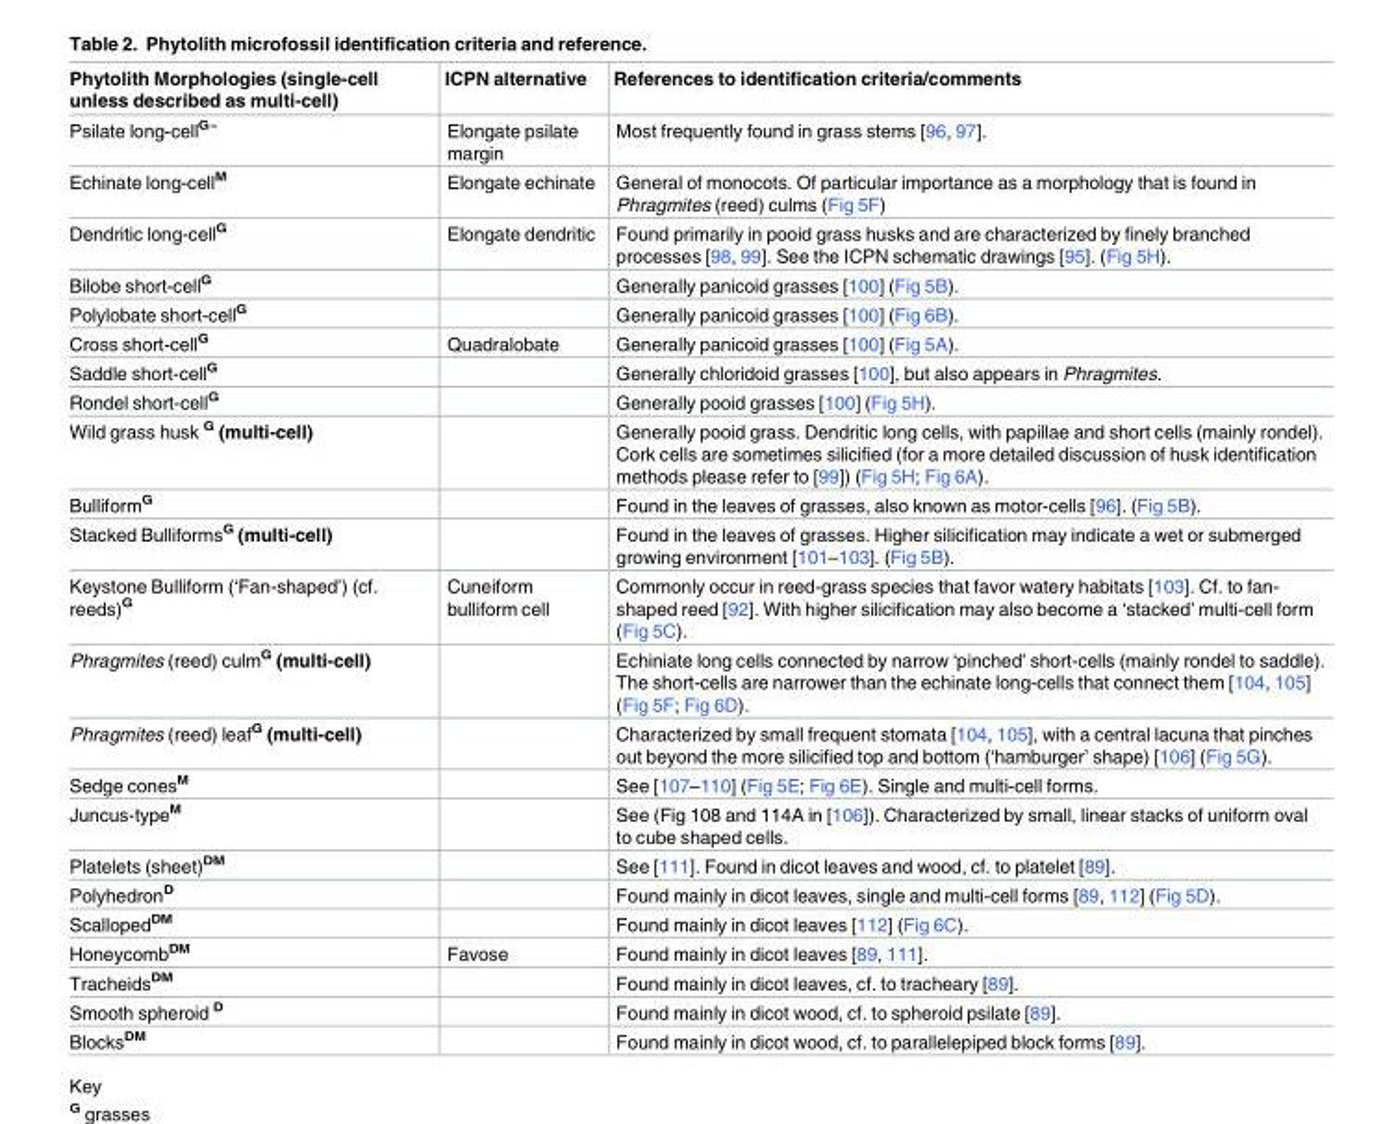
<table><thead><tr><td>Phytolith Morphologies (single-cell unless described as multi-cell)</td><td>ICPN alternative</td><td>References to identification criteria/comments</td></tr></thead><tbody><tr><td>Psilate long-cell<sup>G~</sup></td><td>Elongate psilate margin</td><td>Most frequently found in grass stems [96, 97].</td></tr><tr><td>Echinate long-cell<sup>M</sup></td><td>Elongate echinate</td><td>General of monocots. Of particular importance as a morphology that is found in Phragmites (reed) culms (Fig 5F)</td></tr><tr><td>Dendritic long-cell<sup>G</sup></td><td>Elongate dendritic</td><td>Found primarily in pooid grass husks and are characterized by finely branched processes [98, 99]. See the ICPN schematic drawings [95]. (Fig 5H).</td></tr><tr><td>Bilobe short-cell<sup>G</sup></td><td></td><td>Generally panicoid grasses [100] (Fig 5B).</td></tr><tr><td>Polylobate short-cell<sup>G</sup></td><td></td><td>Generally panicoid grasses [100] (Fig 6B).</td></tr><tr><td>Cross short-cell<sup>G</sup></td><td>Quadralobate</td><td>Generally panicoid grasses [100] (Fig 5A).</td></tr><tr><td>Saddle short-cell<sup>G</sup></td><td></td><td>Generally chloridoid grasses [100], but also appears in Phragmites.</td></tr><tr><td>Rondel short-cell<sup>G</sup></td><td></td><td>Generally pooid grasses [100] (Fig 5H).</td></tr><tr><td>Wild grass husk <sup>G</sup> (multi-cell)</td><td></td><td>Generally pooid grass. Dendritic long cells, with papillae and short cells (mainly rondel). Cork cells are sometimes silicified (for a more detailed discussion of husk identification methods please refer to [99]) (Fig 5H; Fig 6A).</td></tr><tr><td>Bulliform<sup>G</sup></td><td></td><td>Found in the leaves of grasses, also known as motor-cells [96]. (Fig 5B).</td></tr><tr><td>Stacked Bulliforms<sup>G</sup> (multi-cell)</td><td></td><td>Found in the leaves of grasses. Higher silicification may indicate a wet or submerged growing environment [101–103]. (Fig 5B).</td></tr><tr><td>Keystone Bulliform (‘Fan-shaped’) (cf. reeds)<sup>G</sup></td><td>Cuneiform bulliform cell</td><td>Commonly occur in reed-grass species that favor watery habitats [103]. Cf. to fan- shaped reed [92]. With higher silicification may also become a ‘stacked’ multi-cell form (Fig 5C).</td></tr><tr><td>Phragmites (reed) culm<sup>G</sup> (multi-cell)</td><td></td><td>Echiniate long cells connected by narrow ‘pinched’ short-cells (mainly rondel to saddle). The short-cells are narrower than the echinate long-cells that connect them [104, 105] (Fig 5F; Fig 6D).</td></tr><tr><td>Phragmites (reed) leaf<sup>G</sup> (multi-cell)</td><td></td><td>Characterized by small frequent stomata [104, 105], with a central lacuna that pinches out beyond the more silicified top and bottom (‘hamburger’ shape) [106] (Fig 5G).</td></tr><tr><td>Sedge cones<sup>M</sup></td><td></td><td>See [107–110] (Fig 5E; Fig 6E). Single and multi-cell forms.</td></tr><tr><td>Juncus-type<sup>M</sup></td><td></td><td>See (Fig 108 and 114A in [106]). Characterized by small, linear stacks of uniform oval to cube shaped cells.</td></tr><tr><td>Platelets (sheet)<sup>DM</sup></td><td></td><td>See [111]. Found in dicot leaves and wood, cf. to platelet [89].</td></tr><tr><td>Polyhedron<sup>D</sup></td><td></td><td>Found mainly in dicot leaves, single and multi-cell forms [89, 112] (Fig 5D).</td></tr><tr><td>Scalloped<sup>DM</sup></td><td></td><td>Found mainly in dicot leaves [112] (Fig 6C).</td></tr><tr><td>Honeycomb<sup>DM</sup></td><td>Favose</td><td>Found mainly in dicot leaves [89, 111].</td></tr><tr><td>Tracheids<sup>DM</sup></td><td></td><td>Found mainly in dicot leaves, cf. to tracheary [89].</td></tr><tr><td>Smooth spheroid <sup>D</sup></td><td></td><td>Found mainly in dicot wood, cf. to spheroid psilate [89].</td></tr><tr><td>Blocks<sup>DM</sup></td><td></td><td>Found mainly in dicot wood, cf. to parallelepiped block forms [89].</td></tr></tbody></table>